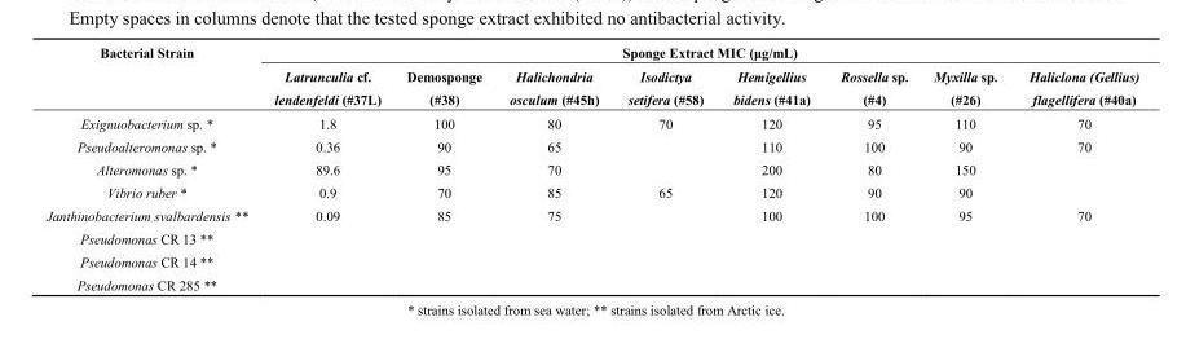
<table><thead><tr><td rowspan="2">Bacterial Strain</td><td colspan="8">Sponge Extract MIC (μg/mL)</td></tr><tr><td>Latrunculia cf. lendenfeldi (#37L)</td><td>Demosponge (#38)</td><td>Halichondria osculum (#45h)</td><td>Isodictya setifera (#58)</td><td>Hemigellius bidens (#41a)</td><td>Rossella sp. (#4)</td><td>Myxilla sp. (#26)</td><td>Haliclona (Gellius) flagellifera (#40a)</td></tr></thead><tbody><tr><td>Exignuobacterium sp. *</td><td>1.8</td><td>100</td><td>80</td><td>70</td><td>120</td><td>95</td><td>110</td><td>70</td></tr><tr><td>Pseudoalteromonas sp. *</td><td>0.36</td><td>90</td><td>65</td><td></td><td>110</td><td>100</td><td>90</td><td>70</td></tr><tr><td>Alteromonas sp. *</td><td>89.6</td><td>95</td><td>70</td><td></td><td>200</td><td>80</td><td>150</td><td></td></tr><tr><td>Vibrio ruber *</td><td>0.9</td><td>70</td><td>85</td><td>65</td><td>120</td><td>90</td><td>90</td><td></td></tr><tr><td>Janthinobacterium svalbardensis **</td><td>0.09</td><td>85</td><td>75</td><td></td><td>100</td><td>100</td><td>95</td><td>70</td></tr><tr><td colspan="9">Pseudomonas CR 13 **</td></tr><tr><td colspan="9">Pseudomonas CR 14 **</td></tr><tr><td>Pseudomonas CR 285 **</td><td></td><td></td><td></td><td></td><td></td><td></td><td></td><td></td></tr></tbody></table>